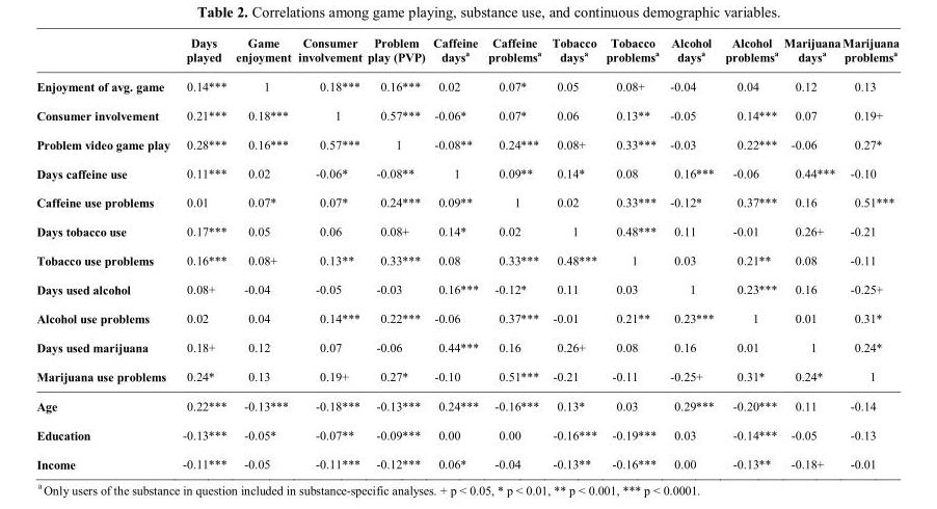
<table><thead><tr><td></td><td>Days played</td><td>Game enjoyment</td><td>Consumer involvement</td><td>Problem play (PVP)</td><td>Caffeine days<sup>a</sup></td><td>Caffeine problems<sup>a</sup></td><td>Tobacco days<sup>a</sup></td><td>Tobacco problems<sup>a</sup></td><td>Alcohol days<sup>a</sup></td><td>Alcohol problems<sup>a</sup></td><td>Marijuana days<sup>a</sup></td><td>Marijuana problems<sup>a</sup></td></tr></thead><tbody><tr><td>Enjoyment of avg. game</td><td>0.14 ***</td><td>1</td><td>0.18 ***</td><td>0.16 ***</td><td>0.02</td><td>0.07 *</td><td>0.05</td><td>0.08 +</td><td>-0.04</td><td>0.04</td><td>0.12</td><td>0.13</td></tr><tr><td>Consumer involvement</td><td>0.21 ***</td><td>0.18 ***</td><td>1</td><td>0.57 ***</td><td>-0.06 *</td><td>0.07 *</td><td>0.06</td><td>0.13 **</td><td>-0.05</td><td>0.14 ***</td><td>0.07</td><td>0.19 +</td></tr><tr><td>Problem video game play</td><td>0.28 ***</td><td>0.16 ***</td><td>0.57 ***</td><td>1</td><td>-0.08 **</td><td>0.24 ***</td><td>0.08 +</td><td>0.33 ***</td><td>-0.03</td><td>0.22 ***</td><td>-0.06</td><td>0.27 *</td></tr><tr><td>Days caffeine use</td><td>0.11 ***</td><td>0.02</td><td>-0.06 *</td><td>-0.08 **</td><td>1</td><td>0.09 **</td><td>0.14 *</td><td>0.08</td><td>0.16 ***</td><td>-0.06</td><td>0.44 ***</td><td>-0.10</td></tr><tr><td>Caffeine use problems</td><td>0.01</td><td>0.07 *</td><td>0.07 *</td><td>0.24 ***</td><td>0.09 **</td><td>1</td><td>0.02</td><td>0.33 ***</td><td>-0.12 *</td><td>0.37 ***</td><td>0.16</td><td>0.51 ***</td></tr><tr><td>Days tobacco use</td><td>0.17 ***</td><td>0.05</td><td>0.06</td><td>0.08 +</td><td>0.14 *</td><td>0.02</td><td>1</td><td>0.48 ***</td><td>0.11</td><td>-0.01</td><td>0.26 +</td><td>-0.21</td></tr><tr><td>Tobacco use problems</td><td>0.16 ***</td><td>0.08 +</td><td>0.13 **</td><td>0.33 ***</td><td>0.08</td><td>0.33 ***</td><td>0.48 ***</td><td>1</td><td>0.03</td><td>0.21 **</td><td>0.08</td><td>-0.11</td></tr><tr><td>Days used alcohol</td><td>0.08 +</td><td>-0.04</td><td>-0.05</td><td>-0.03</td><td>0.16 ***</td><td>-0.12 *</td><td>0.11</td><td>0.03</td><td>1</td><td>0.23 ***</td><td>0.16</td><td>-0.25 +</td></tr><tr><td>Alcohol use problems</td><td>0.02</td><td>0.04</td><td>0.14 ***</td><td>0.22 ***</td><td>-0.06</td><td>0.37 ***</td><td>-0.01</td><td>0.21 **</td><td>0.23 ***</td><td>1</td><td>0.01</td><td>0.31 *</td></tr><tr><td>Days used marijuana</td><td>0.18 +</td><td>0.12</td><td>0.07</td><td>-0.06</td><td>0.44 ***</td><td>0.16</td><td>0.26 +</td><td>0.08</td><td>0.16</td><td>0.01</td><td>1</td><td>0.24 *</td></tr><tr><td>Marijuana use problems</td><td>0.24 *</td><td>0.13</td><td>0.19 +</td><td>0.27 *</td><td>-0.10</td><td>0.51 ***</td><td>-0.21</td><td>-0.11</td><td>-0.25 +</td><td>0.31 *</td><td>0.24 *</td><td>1</td></tr><tr><td>Age</td><td>0.22 ***</td><td>-0.13 ***</td><td>-0.18 ***</td><td>-0.13 ***</td><td>0.24 ***</td><td>-0.16 ***</td><td>0.13 *</td><td>0.03</td><td>0.29 ***</td><td>-0.20 ***</td><td>0.11</td><td>-0.14</td></tr><tr><td>Education</td><td>-0.13 ***</td><td>-0.05 *</td><td>-0.07 **</td><td>-0.09 ***</td><td>0.00</td><td>0.00</td><td>-0.16 ***</td><td>-0.19 ***</td><td>0.03</td><td>-0.14 ***</td><td>-0.05</td><td>-0.13</td></tr><tr><td>Income</td><td>-0.11 ***</td><td>-0.05</td><td>-0.11 ***</td><td>-0.12 ***</td><td>0.06 *</td><td>-0.04</td><td>-0.13 **</td><td>-0.16 ***</td><td>0.00</td><td>-0.13 **</td><td>-0.18 +</td><td>-0.01</td></tr></tbody></table>